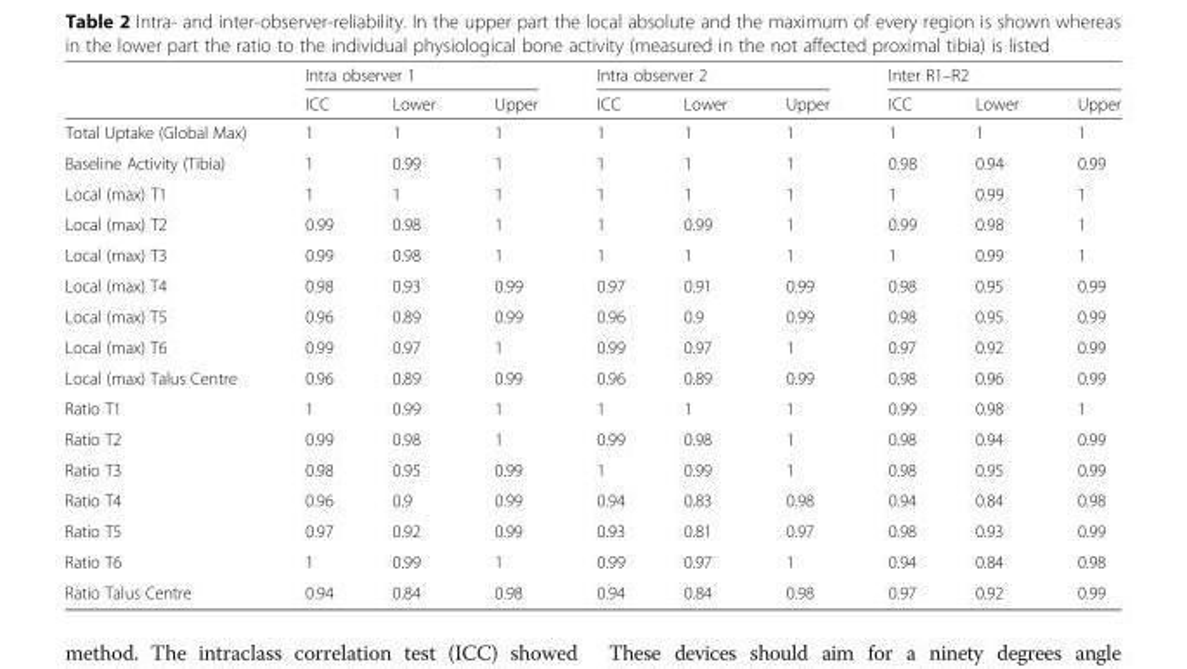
<table><thead><tr><td rowspan="2"></td><td colspan="3">Intra observer 1</td><td colspan="3">Intra observer 2</td><td colspan="3">Inter R1–R2</td></tr><tr><td>ICC</td><td>Lower</td><td>Upper</td><td>ICC</td><td>Lower</td><td>Upper</td><td>ICC</td><td>Lower</td><td>Upper</td></tr></thead><tbody><tr><td>Total Uptake (Global Max)</td><td>1</td><td>1</td><td>1</td><td>1</td><td>1</td><td>1</td><td>1</td><td>1</td><td>1</td></tr><tr><td>Baseline Activity (Tibia)</td><td>1</td><td>0.99</td><td>1</td><td>1</td><td>1</td><td>1</td><td>0.98</td><td>0.94</td><td>0.99</td></tr><tr><td>Local (max) T1</td><td>1</td><td>1</td><td>1</td><td>1</td><td>1</td><td>1</td><td>1</td><td>0.99</td><td>1</td></tr><tr><td>Local (max) T2</td><td>0.99</td><td>0.98</td><td>1</td><td>1</td><td>0.99</td><td>1</td><td>0.99</td><td>0.98</td><td>1</td></tr><tr><td>Local (max) T3</td><td>0.99</td><td>0.98</td><td>1</td><td>1</td><td>1</td><td>1</td><td>1</td><td>0.99</td><td>1</td></tr><tr><td>Local (max) T4</td><td>0.98</td><td>0.93</td><td>0.99</td><td>0.97</td><td>0.91</td><td>0.99</td><td>0.98</td><td>0.95</td><td>0.99</td></tr><tr><td>Local (max) T5</td><td>0.96</td><td>0.89</td><td>0.99</td><td>0.96</td><td>0.9</td><td>0.99</td><td>0.98</td><td>0.95</td><td>0.99</td></tr><tr><td>Local (max) T6</td><td>0.99</td><td>0.97</td><td>1</td><td>0.99</td><td>0.97</td><td>1</td><td>0.97</td><td>0.92</td><td>0.99</td></tr><tr><td>Local (max) Talus Centre</td><td>0.96</td><td>0.89</td><td>0.99</td><td>0.96</td><td>0.89</td><td>0.99</td><td>0.98</td><td>0.96</td><td>0.99</td></tr><tr><td>Ratio T1</td><td>1</td><td>0.99</td><td>1</td><td>1</td><td>1</td><td>1</td><td>0.99</td><td>0.98</td><td>1</td></tr><tr><td>Ratio T2</td><td>0.99</td><td>0.98</td><td>1</td><td>0.99</td><td>0.98</td><td>1</td><td>0.98</td><td>0.94</td><td>0.99</td></tr><tr><td>Ratio T3</td><td>0.98</td><td>0.95</td><td>0.99</td><td>1</td><td>0.99</td><td>1</td><td>0.98</td><td>0.95</td><td>0.99</td></tr><tr><td>Ratio T4</td><td>0.96</td><td>0.9</td><td>0.99</td><td>0.94</td><td>0.83</td><td>0.98</td><td>0.94</td><td>0.84</td><td>0.98</td></tr><tr><td>Ratio T5</td><td>0.97</td><td>0.92</td><td>0.99</td><td>0.93</td><td>0.81</td><td>0.97</td><td>0.98</td><td>0.93</td><td>0.99</td></tr><tr><td>Ratio T6</td><td>1</td><td>0.99</td><td>1</td><td>0.99</td><td>0.97</td><td>1</td><td>0.94</td><td>0.84</td><td>0.98</td></tr><tr><td>Ratio Talus Centre</td><td>0.94</td><td>0.84</td><td>0.98</td><td>0.94</td><td>0.84</td><td>0.98</td><td>0.97</td><td>0.92</td><td>0.99</td></tr></tbody></table>